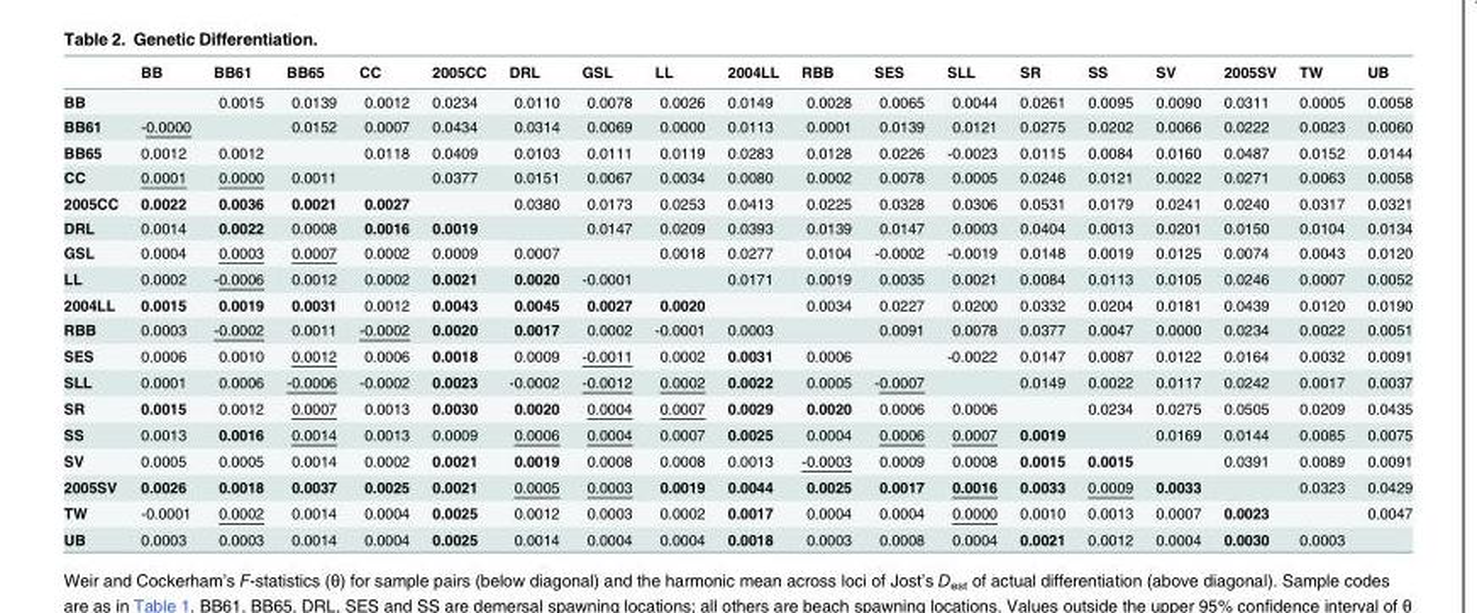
<table><thead><tr><td></td><td>BB</td><td>BB61</td><td>BB65</td><td>CC</td><td>2005CC</td><td>DRL</td><td>GSL</td><td>LL</td><td>2004LL</td><td>RBB</td><td>SES</td><td>SLL</td><td>SR</td><td>SS</td><td>SV</td><td>2005SV</td><td>TW</td><td>UB</td></tr></thead><tbody><tr><td>BB</td><td></td><td>0.0015</td><td>0.0139</td><td>0.0012</td><td>0.0234</td><td>0.0110</td><td>0.0078</td><td>0.0026</td><td>0.0149</td><td>0.0028</td><td>0.0065</td><td>0.0044</td><td>0.0261</td><td>0.0095</td><td>0.0090</td><td>0.0311</td><td>0.0005</td><td>0.0058</td></tr><tr><td>BB61</td><td>-0.0000</td><td></td><td>0.0152</td><td>0.0007</td><td>0.0434</td><td>0.0314</td><td>0.0069</td><td>0.0000</td><td>0.0113</td><td>0.0001</td><td>0.0139</td><td>0.0121</td><td>0.0275</td><td>0.0202</td><td>0.0066</td><td>0.0222</td><td>0.0023</td><td>0.0060</td></tr><tr><td>BB65</td><td>0.0012</td><td>0.0012</td><td></td><td>0.0118</td><td>0.0409</td><td>0.0103</td><td>0.0111</td><td>0.0119</td><td>0.0283</td><td>0.0128</td><td>0.0226</td><td>-0.0023</td><td>0.0115</td><td>0.0084</td><td>0.0160</td><td>0.0487</td><td>0.0152</td><td>0.0144</td></tr><tr><td>CC</td><td>0.0001</td><td>0.0000</td><td>0.0011</td><td></td><td>0.0377</td><td>0.0151</td><td>0.0067</td><td>0.0034</td><td>0.0080</td><td>0.0002</td><td>0.0078</td><td>0.0005</td><td>0.0246</td><td>0.0121</td><td>0.0022</td><td>0.0271</td><td>0.0063</td><td>0.0058</td></tr><tr><td>2005CC</td><td>0.0022</td><td>0.0036</td><td>0.0021</td><td>0.0027</td><td></td><td>0.0380</td><td>0.0173</td><td>0.0253</td><td>0.0413</td><td>0.0225</td><td>0.0328</td><td>0.0306</td><td>0.0531</td><td>0.0179</td><td>0.0241</td><td>0.0240</td><td>0.0317</td><td>0.0321</td></tr><tr><td>DRL</td><td>0.0014</td><td>0.0022</td><td>0.0008</td><td>0.0016</td><td>0.0019</td><td></td><td>0.0147</td><td>0.0209</td><td>0.0393</td><td>0.0139</td><td>0.0147</td><td>0.0003</td><td>0.0404</td><td>0.0013</td><td>0.0201</td><td>0.0150</td><td>0.0104</td><td>0.0134</td></tr><tr><td>GSL</td><td>0.0004</td><td>0.0003</td><td>0.0007</td><td>0.0002</td><td>0.0009</td><td>0.0007</td><td></td><td>0.0018</td><td>0.0277</td><td>0.0104</td><td>-0.0002</td><td>-0.0019</td><td>0.0148</td><td>0.0019</td><td>0.0125</td><td>0.0074</td><td>0.0043</td><td>0.0120</td></tr><tr><td>LL</td><td>0.0002</td><td>-0.0006</td><td>0.0012</td><td>0.0002</td><td>0.0021</td><td>0.0020</td><td>-0.0001</td><td></td><td>0.0171</td><td>0.0019</td><td>0.0035</td><td>0.0021</td><td>0.0084</td><td>0.0113</td><td>0.0105</td><td>0.0246</td><td>0.0007</td><td>0.0052</td></tr><tr><td>2004LL</td><td>0.0015</td><td>0.0019</td><td>0.0031</td><td>0.0012</td><td>0.0043</td><td>0.0045</td><td>0.0027</td><td>0.0020</td><td></td><td>0.0034</td><td>0.0227</td><td>0.0200</td><td>0.0332</td><td>0.0204</td><td>0.0181</td><td>0.0439</td><td>0.0120</td><td>0.0190</td></tr><tr><td>RBB</td><td>0.0003</td><td>-0.0002</td><td>0.0011</td><td>-0.0002</td><td>0.0020</td><td>0.0017</td><td>0.0002</td><td>-0.0001</td><td>0.0003</td><td></td><td>0.0091</td><td>0.0078</td><td>0.0377</td><td>0.0047</td><td>0.0000</td><td>0.0234</td><td>0.0022</td><td>0.0051</td></tr><tr><td>SES</td><td>0.0006</td><td>0.0010</td><td>0.0012</td><td>0.0006</td><td>0.0018</td><td>0.0009</td><td>-0.0011</td><td>0.0002</td><td>0.0031</td><td>0.0006</td><td></td><td>-0.0022</td><td>0.0147</td><td>0.0087</td><td>0.0122</td><td>0.0164</td><td>0.0032</td><td>0.0091</td></tr><tr><td>SLL</td><td>0.0001</td><td>0.0006</td><td>-0.0006</td><td>-0.0002</td><td>0.0023</td><td>-0.0002</td><td>-0.0012</td><td>0.0002</td><td>0.0022</td><td>0.0005</td><td>-0.0007</td><td></td><td>0.0149</td><td>0.0022</td><td>0.0117</td><td>0.0242</td><td>0.0017</td><td>0.0037</td></tr><tr><td>SR</td><td>0.0015</td><td>0.0012</td><td>0.0007</td><td>0.0013</td><td>0.0030</td><td>0.0020</td><td>0.0004</td><td>0.0007</td><td>0.0029</td><td>0.0020</td><td>0.0006</td><td>0.0006</td><td></td><td>0.0234</td><td>0.0275</td><td>0.0505</td><td>0.0209</td><td>0.0435</td></tr><tr><td>SS</td><td>0.0013</td><td>0.0016</td><td>0.0014</td><td>0.0013</td><td>0.0009</td><td>0.0006</td><td>0.0004</td><td>0.0007</td><td>0.0025</td><td>0.0004</td><td>0.0006</td><td>0.0007</td><td>0.0019</td><td></td><td>0.0169</td><td>0.0144</td><td>0.0085</td><td>0.0075</td></tr><tr><td>SV</td><td>0.0005</td><td>0.0005</td><td>0.0014</td><td>0.0002</td><td>0.0021</td><td>0.0019</td><td>0.0008</td><td>0.0008</td><td>0.0013</td><td>-0.0003</td><td>0.0009</td><td>0.0008</td><td>0.0015</td><td>0.0015</td><td></td><td>0.0391</td><td>0.0089</td><td>0.0091</td></tr><tr><td>2005SV</td><td>0.0026</td><td>0.0018</td><td>0.0037</td><td>0.0025</td><td>0.0021</td><td>0.0005</td><td>0.0003</td><td>0.0019</td><td>0.0044</td><td>0.0025</td><td>0.0017</td><td>0.0016</td><td>0.0033</td><td>0.0009</td><td>0.0033</td><td></td><td>0.0323</td><td>0.0429</td></tr><tr><td>TW</td><td>-0.0001</td><td>0.0002</td><td>0.0014</td><td>0.0004</td><td>0.0025</td><td>0.0012</td><td>0.0003</td><td>0.0002</td><td>0.0017</td><td>0.0004</td><td>0.0004</td><td>0.0000</td><td>0.0010</td><td>0.0013</td><td>0.0007</td><td>0.0023</td><td></td><td>0.0047</td></tr><tr><td>UB</td><td>0.0003</td><td>0.0003</td><td>0.0014</td><td>0.0004</td><td>0.0025</td><td>0.0014</td><td>0.0004</td><td>0.0004</td><td>0.0018</td><td>0.0003</td><td>0.0008</td><td>0.0004</td><td>0.0021</td><td>0.0012</td><td>0.0004</td><td>0.0030</td><td>0.0003</td><td></td></tr></tbody></table>